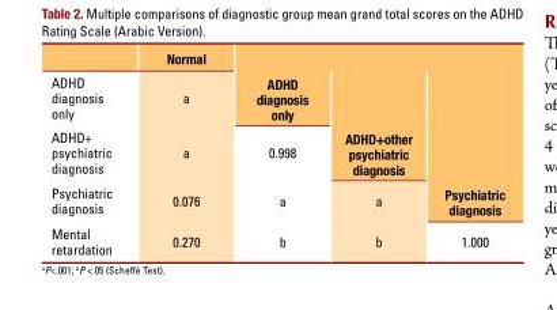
<table><thead><tr><td></td><td>Normal</td><td></td><td></td><td></td></tr></thead><tbody><tr><td>Adhd diagnosis only</td><td>a</td><td>ADHD diagnosis only</td><td></td><td></td></tr><tr><td>Adhd+ psychiatric diagnosis</td><td>a</td><td>0.998</td><td>ADHD+other psychiatric diagnosis</td><td></td></tr><tr><td>Psychiatric diagnosis</td><td>0.076</td><td>a</td><td>a</td><td>Psychiatric diagnosis</td></tr><tr><td>Mental retardation</td><td>0.270</td><td>b</td><td>b</td><td>1.000</td></tr></tbody></table>